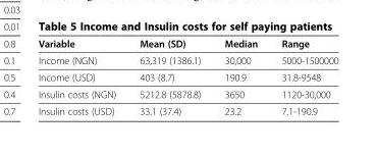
<table><thead><tr><td>Variable</td><td>Mean (SD)</td><td>Median</td><td>Range</td></tr></thead><tbody><tr><td>Income (NGN)</td><td>63,319 (1386.1)</td><td>30,000</td><td>5000-1500000</td></tr><tr><td>Income (USD)</td><td>403 (8.7)</td><td>190.9</td><td>31.8-9548</td></tr><tr><td>Insulin costs (NGN)</td><td>5212.8 (5878.8)</td><td>3650</td><td>1120-30,000</td></tr><tr><td>Insulin costs (USD)</td><td>33.1 (37.4)</td><td>23.2</td><td>7.1-190.9</td></tr></tbody></table>